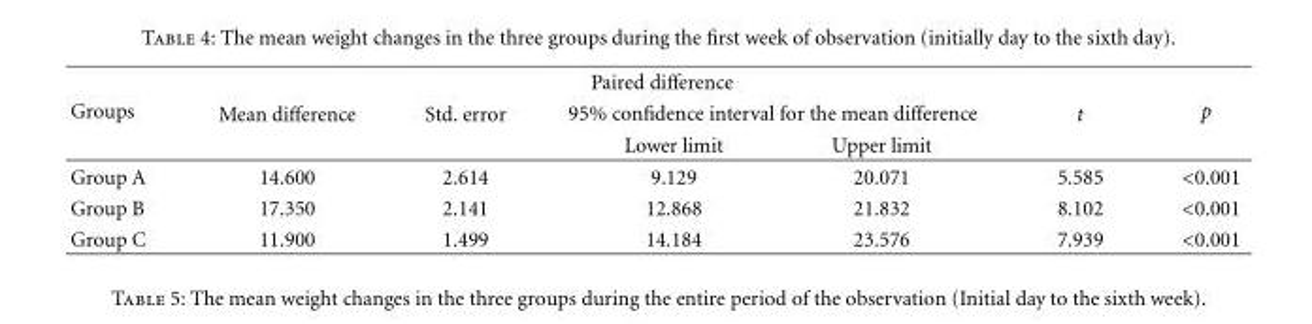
<table><thead><tr><td rowspan="3">Groups</td><td colspan="4">Paired difference</td><td rowspan="3">t</td><td rowspan="3">p</td></tr><tr><td rowspan="2">Mean difference</td><td rowspan="2">Std. error</td><td colspan="2">95% confidence interval for the mean difference</td></tr><tr><td>Lower limit</td><td>Upper limit</td></tr></thead><tbody><tr><td>Group A</td><td>14.600</td><td>2.614</td><td>9.129</td><td>20.071</td><td>5.585</td><td>&lt;0.001</td></tr><tr><td>Group B</td><td>17.350</td><td>2.141</td><td>12.868</td><td>21.832</td><td>8.102</td><td>&lt;0.001</td></tr><tr><td>Group C</td><td>11.900</td><td>1.499</td><td>14.184</td><td>23.576</td><td>7.939</td><td>&lt;0.001</td></tr></tbody></table>